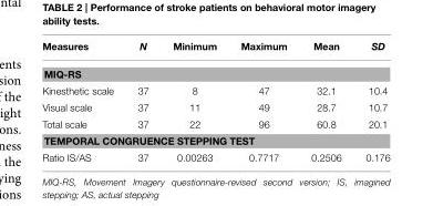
<table><thead><tr><td>Measures</td><td>N</td><td>Minimum</td><td>Maximum</td><td>Mean</td><td>SD</td></tr></thead><tbody><tr><td colspan="6">MIQ-RS</td></tr><tr><td>Kinesthetic scale</td><td>37</td><td>8</td><td>47</td><td>32.1</td><td>10.4</td></tr><tr><td>Visual scale</td><td>37</td><td>11</td><td>49</td><td>28.7</td><td>10.7</td></tr><tr><td>Total scale</td><td>37</td><td>22</td><td>96</td><td>60.8</td><td>20.1</td></tr><tr><td colspan="6">TEMPORAL CONGRUENCE STEPPING TEST</td></tr><tr><td>Ratio IS/AS</td><td>37</td><td>0.00263</td><td>0.7717</td><td>0.2506</td><td>0.176</td></tr></tbody></table>